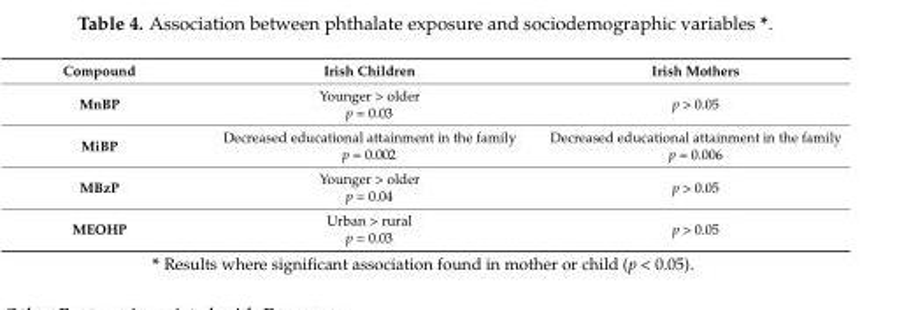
<table><thead><tr><td>Compound</td><td>Irish Children</td><td>Irish Mothers</td></tr></thead><tbody><tr><td>MnBP</td><td>Younger &gt; older p = 0.03</td><td>p &gt; 0.05</td></tr><tr><td>MiBP</td><td>Decreased educational attainment in the family p = 0.002</td><td>Decreased educational attainment in the family p = 0.006</td></tr><tr><td>MBzP</td><td>Younger &gt; older p = 0.04</td><td>p &gt; 0.05</td></tr><tr><td>MEOHP</td><td>Urban &gt; rural p = 0.03</td><td>p &gt; 0.05</td></tr></tbody></table>